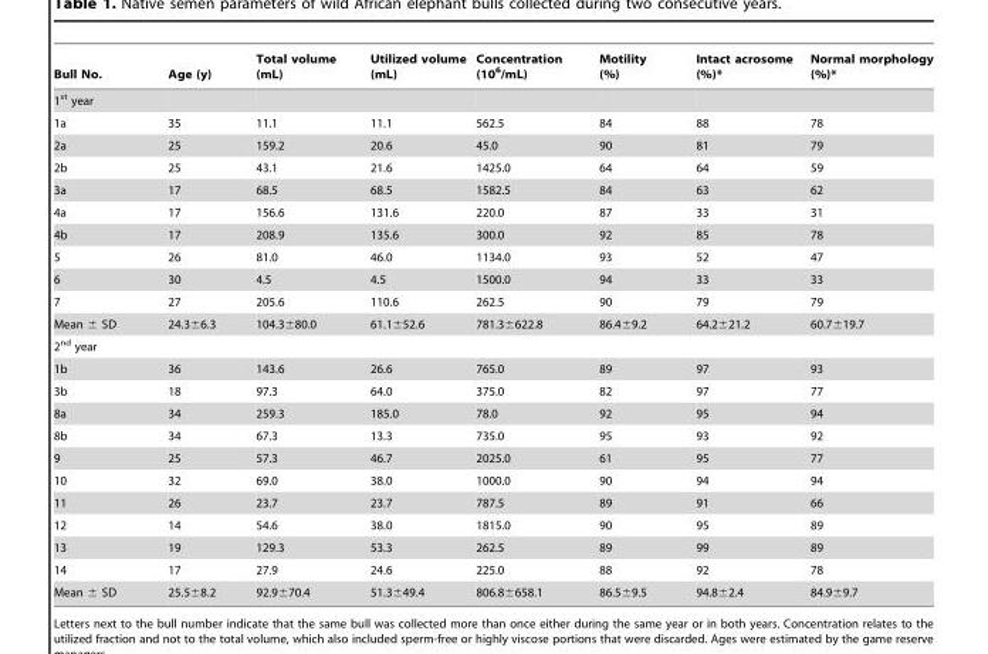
<table><thead><tr><td>Bull No.</td><td>Age (y)</td><td>Total volume (mL)</td><td>Utilized volume (mL)</td><td>Concentration (10<sup>6</sup>/mL)</td><td>Motility (%)</td><td>Intact acrosome (%)*</td><td>Normal morphology (%)*</td></tr></thead><tbody><tr><td colspan="8">1<sup>st</sup> year</td></tr><tr><td>1a</td><td>35</td><td>11.1</td><td>11.1</td><td>562.5</td><td>84</td><td>88</td><td>78</td></tr><tr><td>2a</td><td>25</td><td>159.2</td><td>20.6</td><td>45.0</td><td>90</td><td>81</td><td>79</td></tr><tr><td>2b</td><td>25</td><td>43.1</td><td>21.6</td><td>1425.0</td><td>64</td><td>64</td><td>59</td></tr><tr><td>3a</td><td>17</td><td>68.5</td><td>68.5</td><td>1582.5</td><td>84</td><td>63</td><td>62</td></tr><tr><td>4a</td><td>17</td><td>156.6</td><td>131.6</td><td>220.0</td><td>87</td><td>33</td><td>31</td></tr><tr><td>4b</td><td>17</td><td>208.9</td><td>135.6</td><td>300.0</td><td>92</td><td>85</td><td>78</td></tr><tr><td>5</td><td>26</td><td>81.0</td><td>46.0</td><td>1134.0</td><td>93</td><td>52</td><td>47</td></tr><tr><td>6</td><td>30</td><td>4.5</td><td>4.5</td><td>1500.0</td><td>94</td><td>33</td><td>33</td></tr><tr><td>7</td><td>27</td><td>205.6</td><td>110.6</td><td>262.5</td><td>90</td><td>79</td><td>79</td></tr><tr><td>Mean ± SD</td><td>24.3±6.3</td><td>104.3±80.0</td><td>61.1±52.6</td><td>781.3±622.8</td><td>86.4±9.2</td><td>64.2±21.2</td><td>60.7±19.7</td></tr><tr><td colspan="8">2<sup>nd</sup> year</td></tr><tr><td>1b</td><td>36</td><td>143.6</td><td>26.6</td><td>765.0</td><td>89</td><td>97</td><td>93</td></tr><tr><td>3b</td><td>18</td><td>97.3</td><td>64.0</td><td>375.0</td><td>82</td><td>97</td><td>77</td></tr><tr><td>8a</td><td>34</td><td>259.3</td><td>185.0</td><td>78.0</td><td>92</td><td>95</td><td>94</td></tr><tr><td>8b</td><td>34</td><td>67.3</td><td>13.3</td><td>735.0</td><td>95</td><td>93</td><td>92</td></tr><tr><td>9</td><td>25</td><td>57.3</td><td>46.7</td><td>2025.0</td><td>61</td><td>95</td><td>77</td></tr><tr><td>10</td><td>32</td><td>69.0</td><td>38.0</td><td>1000.0</td><td>90</td><td>94</td><td>94</td></tr><tr><td>11</td><td>26</td><td>23.7</td><td>23.7</td><td>787.5</td><td>89</td><td>91</td><td>66</td></tr><tr><td>12</td><td>14</td><td>54.6</td><td>38.0</td><td>1815.0</td><td>90</td><td>95</td><td>89</td></tr><tr><td>13</td><td>19</td><td>129.3</td><td>53.3</td><td>262.5</td><td>89</td><td>99</td><td>89</td></tr><tr><td>14</td><td>17</td><td>27.9</td><td>24.6</td><td>225.0</td><td>88</td><td>92</td><td>78</td></tr><tr><td>Mean ± SD</td><td>25.5±8.2</td><td>92.9±70.4</td><td>51.3±49.4</td><td>806.8±658.1</td><td>86.5±9.5</td><td>94.8±2.4</td><td>84.9±9.7</td></tr></tbody></table>